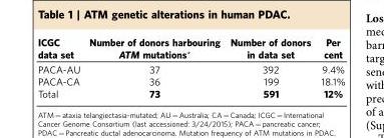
<table><thead><tr><td>ICGC data set</td><td>Number of donors harbouring ATM mutations*</td><td>Number of donors in data set</td><td>Per cent</td></tr></thead><tbody><tr><td>PACA-AU</td><td>37</td><td>392</td><td>9.4%</td></tr><tr><td>PACA-CA</td><td>36</td><td>199</td><td>18.1%</td></tr><tr><td>Total</td><td>73</td><td>591</td><td>12%</td></tr></tbody></table>